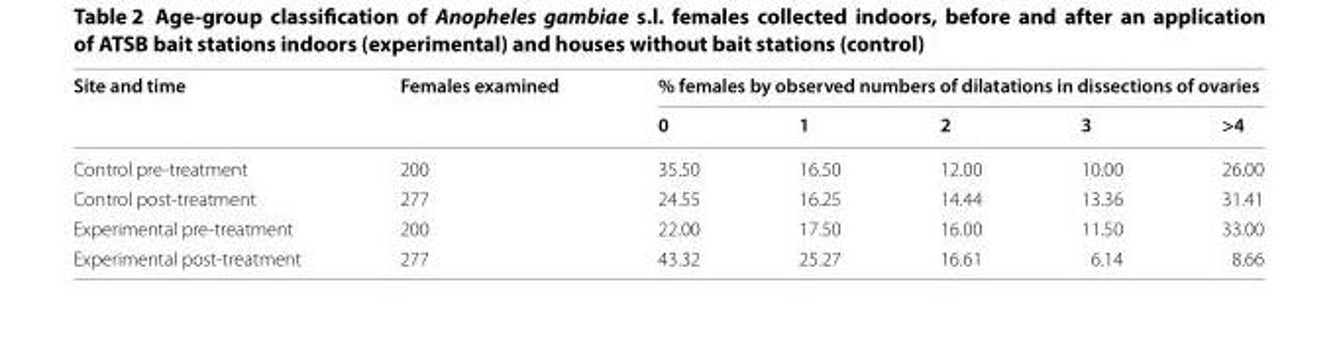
<table><thead><tr><td rowspan="2">Site and time</td><td rowspan="2">Females examined</td><td colspan="5">% females by observed numbers of dilatations in dissections of ovaries</td></tr><tr><td>0</td><td>1</td><td>2</td><td>3</td><td>&gt;4</td></tr></thead><tbody><tr><td>Control pre‑treatment</td><td>200</td><td>35.50</td><td>16.50</td><td>12.00</td><td>10.00</td><td>26.00</td></tr><tr><td>Control post‑treatment</td><td>277</td><td>24.55</td><td>16.25</td><td>14.44</td><td>13.36</td><td>31.41</td></tr><tr><td>Experimental pre‑treatment</td><td>200</td><td>22.00</td><td>17.50</td><td>16.00</td><td>11.50</td><td>33.00</td></tr><tr><td>Experimental post‑treatment</td><td>277</td><td>43.32</td><td>25.27</td><td>16.61</td><td>6.14</td><td>8.66</td></tr></tbody></table>